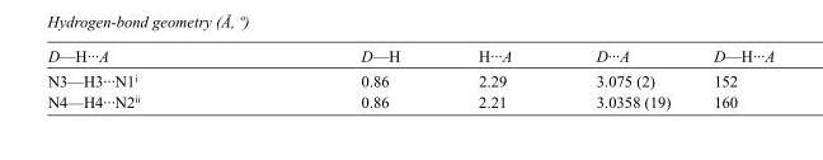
<table><tbody><tr><td>D—H···A</td><td>D—H</td><td>H···A</td><td>D···A</td><td>D—H···A</td></tr><tr><td>N3—H3···N1<sup>i</sup></td><td>0.86</td><td>2.29</td><td>3.075 (2)</td><td>152</td></tr><tr><td>N4—H4···N2<sup>ii</sup></td><td>0.86</td><td>2.21</td><td>3.0358 (19)</td><td>160</td></tr></tbody></table>